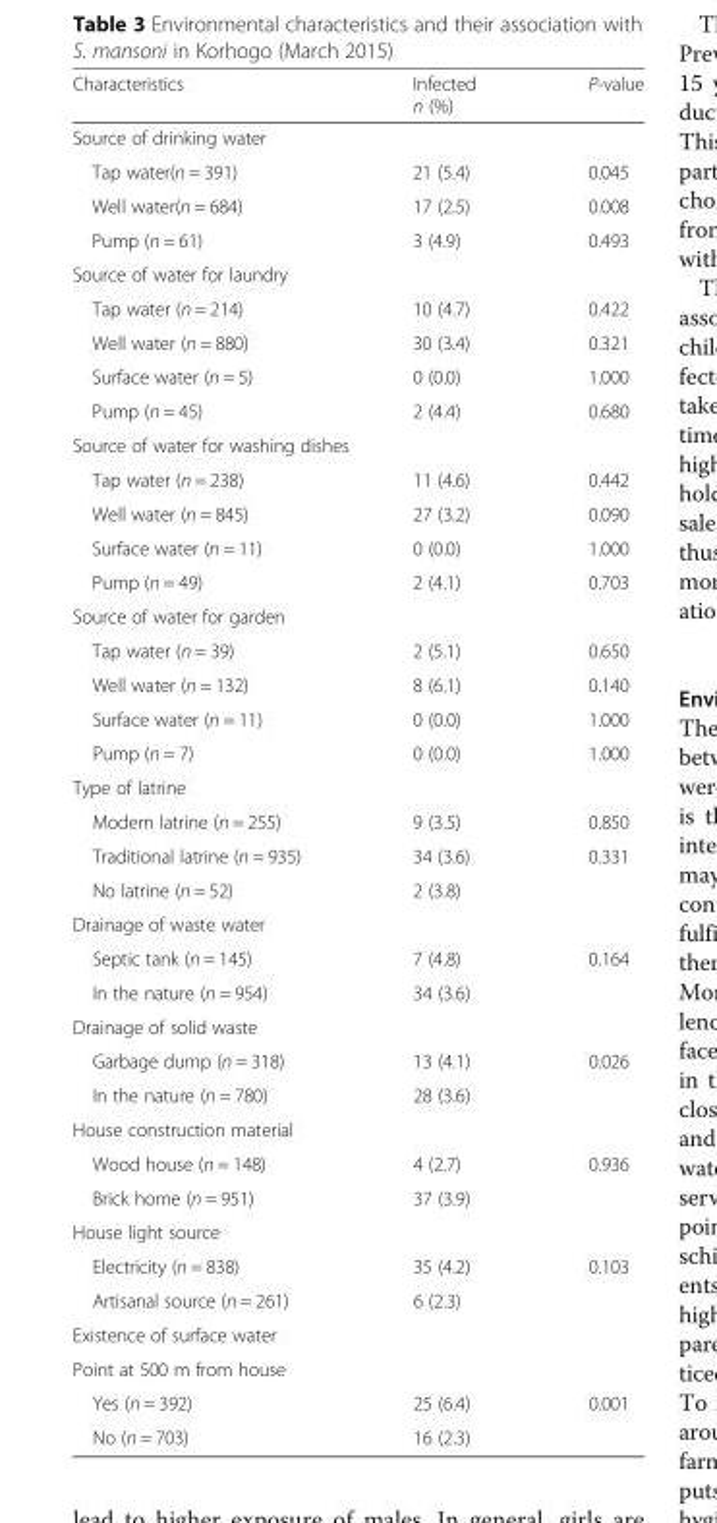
<table><thead><tr><td>Characteristics</td><td>Infected n (%)</td><td>P-value</td></tr></thead><tbody><tr><td colspan="3">Source of drinking water</td></tr><tr><td>Tap water(n = 391)</td><td>21 (5.4)</td><td>0.045</td></tr><tr><td>Well water(n = 684)</td><td>17 (2.5)</td><td>0.008</td></tr><tr><td>Pump (n = 61)</td><td>3 (4.9)</td><td>0.493</td></tr><tr><td colspan="3">Source of water for laundry</td></tr><tr><td>Tap water (n = 214)</td><td>10 (4.7)</td><td>0.422</td></tr><tr><td>Well water (n = 880)</td><td>30 (3.4)</td><td>0.321</td></tr><tr><td>Surface water (n = 5)</td><td>0 (0.0)</td><td>1.000</td></tr><tr><td>Pump (n = 45)</td><td>2 (4.4)</td><td>0.680</td></tr><tr><td colspan="3">Source of water for washing dishes</td></tr><tr><td>Tap water (n = 238)</td><td>11 (4.6)</td><td>0.442</td></tr><tr><td>Well water (n = 845)</td><td>27 (3.2)</td><td>0.090</td></tr><tr><td>Surface water (n = 11)</td><td>0 (0.0)</td><td>1.000</td></tr><tr><td>Pump (n = 49)</td><td>2 (4.1)</td><td>0.703</td></tr><tr><td colspan="3">Source of water for garden</td></tr><tr><td>Tap water (n = 39)</td><td>2 (5.1)</td><td>0.650</td></tr><tr><td>Well water (n = 132)</td><td>8 (6.1)</td><td>0.140</td></tr><tr><td>Surface water (n = 11)</td><td>0 (0.0)</td><td>1.000</td></tr><tr><td>Pump (n = 7)</td><td>0 (0.0)</td><td>1.000</td></tr><tr><td colspan="3">Type of latrine</td></tr><tr><td>Modern latrine (n = 255)</td><td>9 (3.5)</td><td>0.850</td></tr><tr><td>Traditional latrine (n = 935)</td><td>34 (3.6)</td><td>0.331</td></tr><tr><td>No latrine (n = 52)</td><td>2 (3.8)</td><td></td></tr><tr><td colspan="3">Drainage of waste water</td></tr><tr><td>Septic tank (n = 145)</td><td>7 (4.8)</td><td>0.164</td></tr><tr><td>In the nature (n = 954)</td><td>34 (3.6)</td><td></td></tr><tr><td colspan="3">Drainage of solid waste</td></tr><tr><td>Garbage dump (n = 318)</td><td>13 (4.1)</td><td>0.026</td></tr><tr><td>In the nature (n = 780)</td><td>28 (3.6)</td><td></td></tr><tr><td colspan="3">House construction material</td></tr><tr><td>Wood house (n = 148)</td><td>4 (2.7)</td><td>0.936</td></tr><tr><td>Brick home (n = 951)</td><td>37 (3.9)</td><td></td></tr><tr><td colspan="3">House light source</td></tr><tr><td>Electricity (n = 838)</td><td>35 (4.2)</td><td>0.103</td></tr><tr><td>Artisanal source (n = 261)</td><td>6 (2.3)</td><td></td></tr><tr><td colspan="3">Existence of surface water</td></tr><tr><td colspan="3">Point at 500 m from house</td></tr><tr><td>Yes (n = 392)</td><td>25 (6.4)</td><td>0.001</td></tr><tr><td>No (n = 703)</td><td>16 (2.3)</td><td></td></tr></tbody></table>